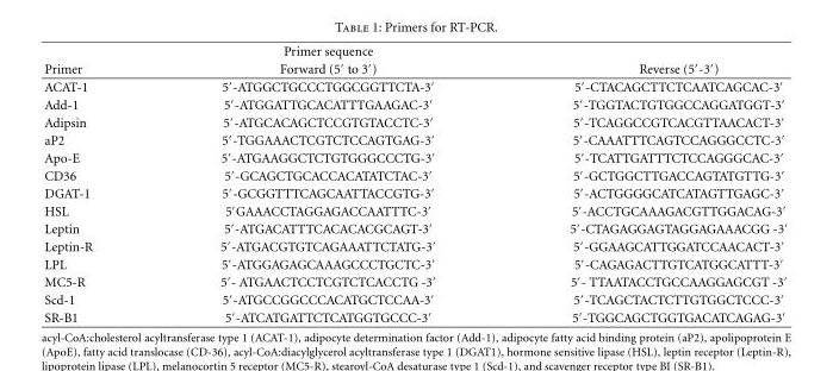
<table><thead><tr><td rowspan="2">Primer</td><td rowspan="2">Primer sequence Forward (5′ to 3′)</td><td rowspan="2">Reverse (5′-3′)</td></tr><tr></tr></thead><tbody><tr><td>ACAT-1</td><td>5′-ATGGCTGCCCTGGCGGTTCTA-3′</td><td>5′-CTACAGCTTCTCAATCAGCAC-3′</td></tr><tr><td>Add-1</td><td>5′-ATGGATTGCACATTTGAAGAC-3′</td><td>5′-TGGTACTGTGGCCAGGATGGT-3′</td></tr><tr><td>Adipsin</td><td>5′-ATGCACAGCTCCGTGTACCTC-3′</td><td>5′-TCAGGCCGTCACGTTAACACT-3′</td></tr><tr><td>aP2</td><td>5′-TGGAAACTCGTCTCCAGTGAG-3′</td><td>5′-CAAATTTCAGTCCAGGGCCTC-3′</td></tr><tr><td>Apo-E</td><td>5′-ATGAAGGCTCTGTGGGCCCTG-3′</td><td>5′-TCATTGATTTCTCCAGGGCAC-3′</td></tr><tr><td>CD36</td><td>5′-GCAGCTGCACCACATATCTAC-3′</td><td>5′-GCTGGCTTGACCAGTATGTTG-3′</td></tr><tr><td>DGAT-1</td><td>5′-GCGGTTTCAGCAATTACCGTG-3′</td><td>5′-ACTGGGGCATCATAGTTGAGC-3′</td></tr><tr><td>HSL</td><td>5′GAAACCTAGGAGACCAATTTC-3′</td><td>5′-ACCTGCAAAGACGTTGGACAG-3′</td></tr><tr><td>Leptin</td><td>5′-ATGACATTTCACACACGCAGT-3′</td><td>5′-CTAGAGGAGTAGGAGAAACGG -3′</td></tr><tr><td>Leptin-R</td><td>5′-ATGACGTGTCAGAAATTCTATG-3′</td><td>5′-GGAAGCATTGGATCCAACACT-3′</td></tr><tr><td>LPL</td><td>5′-ATGGAGAGCAAAGCCCTGCTC-3′</td><td>5′-CAGAGACTTGTCATGGCATTT-3′</td></tr><tr><td>MC5-R</td><td>5′- ATGAACTCCTCGTCTCACCTG -3′</td><td>5′- TTAATACCTGCCAAGGAGCGT -3′</td></tr><tr><td>Scd-1</td><td>5′-ATGCCGGCCCACATGCTCCAA-3′</td><td>5′-TCAGCTACTCTTGTGGCTCCC-3′</td></tr><tr><td>SR-B1</td><td>5′-ATCATGATTCTCATGGTGCCC-3′</td><td>5′-TGGCAGCTGGTGACATCAGAG-3′</td></tr></tbody></table>